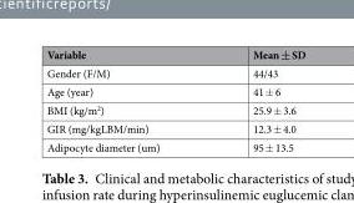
<table><thead><tr><td>Variable</td><td>Mean ± SD</td></tr></thead><tbody><tr><td>Gender (F/M)</td><td>44/43</td></tr><tr><td>Age (year)</td><td>41 ± 6</td></tr><tr><td>BMI (kg/m<sup>2</sup>)</td><td>25.9 ± 3.6</td></tr><tr><td>GIR (mg/kgLBM/min)</td><td>12.3 ± 4.0</td></tr><tr><td>Adipocyte diameter (um)</td><td>95 ± 13.5</td></tr></tbody></table>